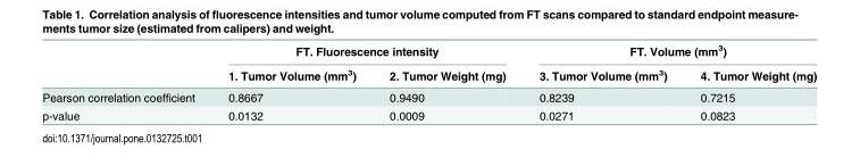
<table><thead><tr><td rowspan="2"></td><td colspan="2">FT. Fluorescence intensity</td><td colspan="2">FT. Volume (mm<sup>3</sup>)</td></tr><tr><td>1. Tumor Volume (mm<sup>3</sup>)</td><td>2. Tumor Weight (mg)</td><td>3. Tumor Volume (mm<sup>3</sup>)</td><td>4. Tumor Weight (mg)</td></tr></thead><tbody><tr><td>Pearson correlation coefficient</td><td>0.8667</td><td>0.9490</td><td>0.8239</td><td>0.7215</td></tr><tr><td>p-value</td><td>0.0132</td><td>0.0009</td><td>0.0271</td><td>0.0823</td></tr></tbody></table>